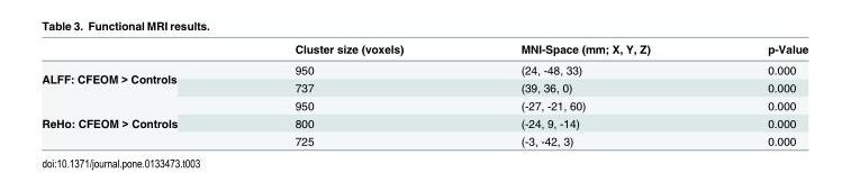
<table><thead><tr><td></td><td>Cluster size (voxels)</td><td>MNI-Space (mm; X, Y, Z)</td><td>p-Value</td></tr></thead><tbody><tr><td rowspan="2">ALFF: CFEOM &gt; Controls</td><td>950</td><td>(24, -48, 33)</td><td>0.000</td></tr><tr><td>737</td><td>(39, 36, 0)</td><td>0.000</td></tr><tr><td rowspan="3">ReHo: CFEOM &gt; Controls</td><td>950</td><td>(-27, -21, 60)</td><td>0.000</td></tr><tr><td>800</td><td>(-24, 9, -14)</td><td>0.000</td></tr><tr><td>725</td><td>(-3, -42, 3)</td><td>0.000</td></tr></tbody></table>